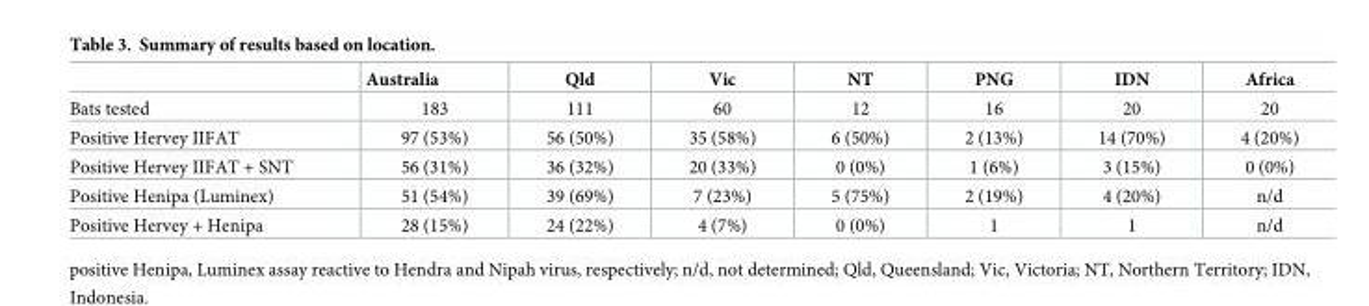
<table><thead><tr><td></td><td>Australia</td><td>Qld</td><td>Vic</td><td>NT</td><td>PNG</td><td>IDN</td><td>Africa</td></tr></thead><tbody><tr><td>Bats tested</td><td>183</td><td>111</td><td>60</td><td>12</td><td>16</td><td>20</td><td>20</td></tr><tr><td>Positive Hervey IIFAT</td><td>97 (53%)</td><td>56 (50%)</td><td>35 (58%)</td><td>6 (50%)</td><td>2 (13%)</td><td>14 (70%)</td><td>4 (20%)</td></tr><tr><td>Positive Hervey IIFAT + SNT</td><td>56 (31%)</td><td>36 (32%)</td><td>20 (33%)</td><td>0 (0%)</td><td>1 (6%)</td><td>3 (15%)</td><td>0 (0%)</td></tr><tr><td>Positive Henipa (Luminex)</td><td>51 (54%)</td><td>39 (69%)</td><td>7 (23%)</td><td>5 (75%)</td><td>2 (19%)</td><td>4 (20%)</td><td>n/d</td></tr><tr><td>Positive Hervey + Henipa</td><td>28 (15%)</td><td>24 (22%)</td><td>4 (7%)</td><td>0 (0%)</td><td>1</td><td>1</td><td>n/d</td></tr></tbody></table>